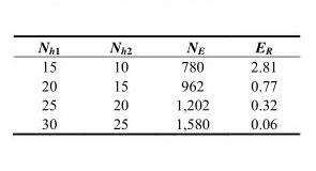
<table><thead><tr><td>N<sub>h1</sub></td><td>N<sub>h2</sub></td><td>N<sub>E</sub></td><td>E<sub>R</sub></td></tr></thead><tbody><tr><td>15</td><td>10</td><td>780</td><td>2.81</td></tr><tr><td>20</td><td>15</td><td>962</td><td>0.77</td></tr><tr><td>25</td><td>20</td><td>1,202</td><td>0.32</td></tr><tr><td>30</td><td>25</td><td>1,580</td><td>0.06</td></tr></tbody></table>